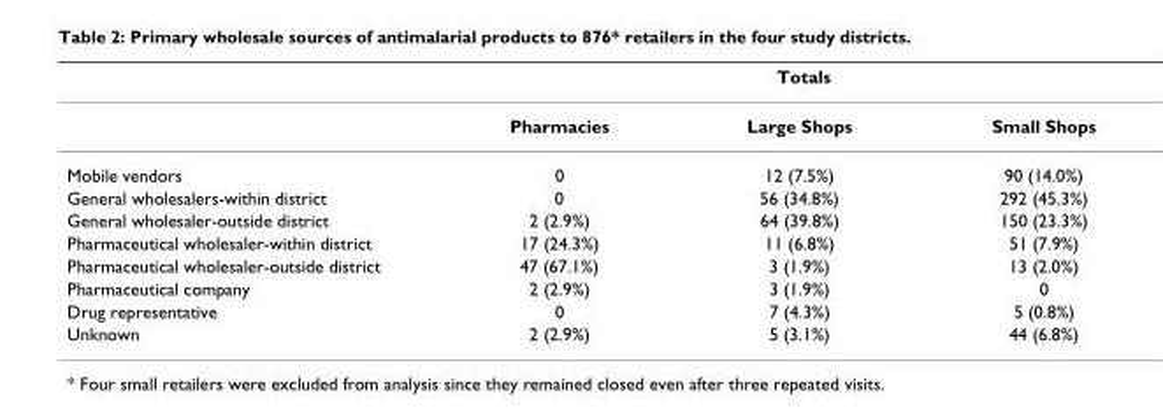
<table><thead><tr><td rowspan="2"></td><td colspan="3">Totals</td></tr><tr><td>Pharmacies</td><td>Large Shops</td><td>Small Shops</td></tr></thead><tbody><tr><td>Mobile vendors</td><td>0</td><td>12 (7.5%)</td><td>90 (14.0%)</td></tr><tr><td>General wholesalers-within district</td><td>0</td><td>56 (34.8%)</td><td>292 (45.3%)</td></tr><tr><td>General wholesaler-outside district</td><td>2 (2.9%)</td><td>64 (39.8%)</td><td>150 (23.3%)</td></tr><tr><td>Pharmaceutical wholesaler-within district</td><td>17 (24.3%)</td><td>11 (6.8%)</td><td>51 (7.9%)</td></tr><tr><td>Pharmaceutical wholesaler-outside district</td><td>47 (67.1%)</td><td>3 (1.9%)</td><td>13 (2.0%)</td></tr><tr><td>Pharmaceutical company</td><td>2 (2.9%)</td><td>3 (1.9%)</td><td>0</td></tr><tr><td>Drug representative</td><td>0</td><td>7 (4.3%)</td><td>5 (0.8%)</td></tr><tr><td>Unknown</td><td>2 (2.9%)</td><td>5 (3.1%)</td><td>44 (6.8%)</td></tr></tbody></table>